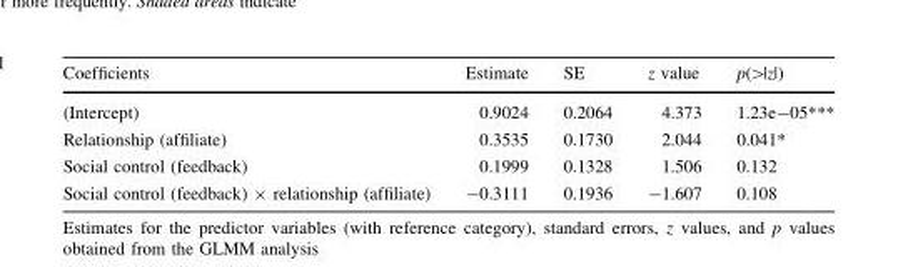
<table><thead><tr><td>Coefficients</td><td>Estimate</td><td>SE</td><td>z value</td><td>p(&gt;|z|)</td></tr></thead><tbody><tr><td>(Intercept)</td><td>0.9024</td><td>0.2064</td><td>4.373</td><td>1.23e-05***</td></tr><tr><td>Relationship (affiliate)</td><td>0.3535</td><td>0.1730</td><td>2.044</td><td>0.041*</td></tr><tr><td>Social control (feedback)</td><td>0.1999</td><td>0.1328</td><td>1.506</td><td>0.132</td></tr><tr><td>Social control (feedback) × relationship (affiliate)</td><td>-0.3111</td><td>0.1936</td><td>-1.607</td><td>0.108</td></tr></tbody></table>